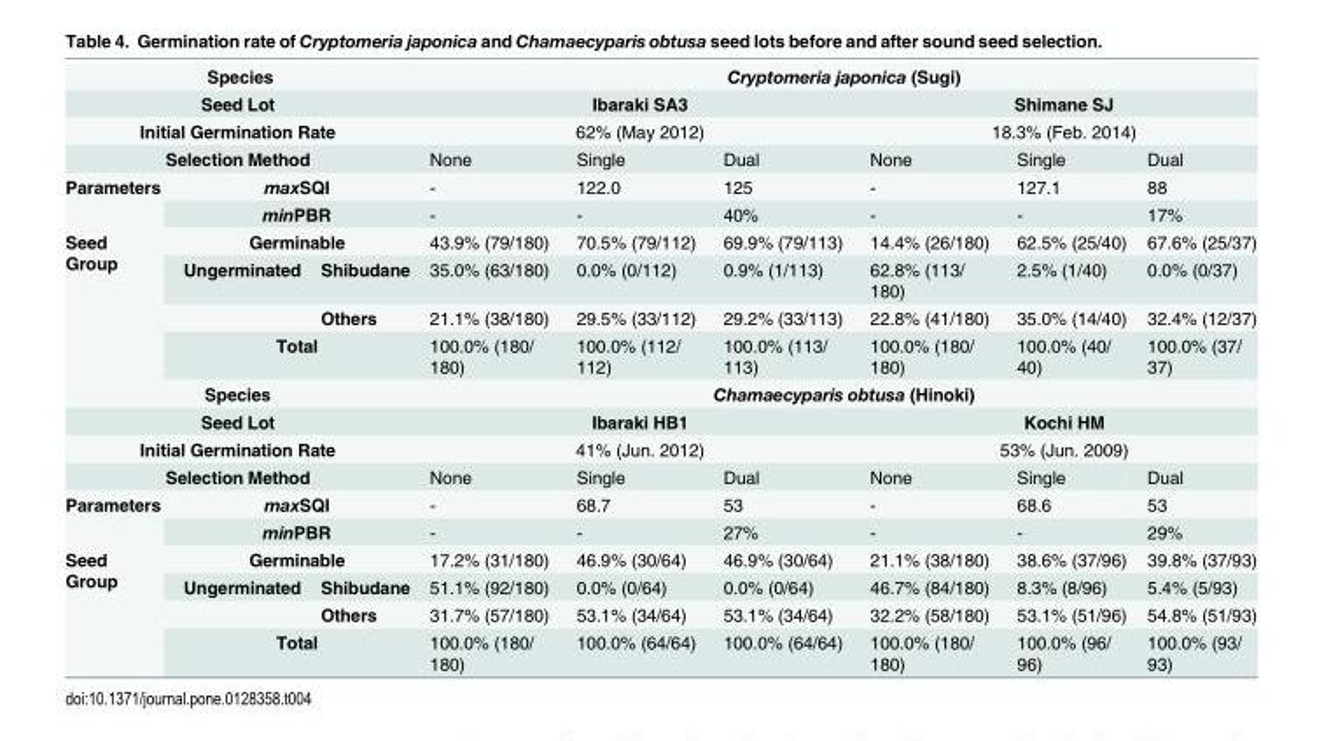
<table><tbody><tr><td colspan="3">Species</td><td colspan="6">Cryptomeria japonica (Sugi)</td></tr><tr><td colspan="3">Seed Lot</td><td colspan="3">Ibaraki SA3</td><td colspan="3">Shimane SJ</td></tr><tr><td colspan="3">Initial Germination Rate</td><td colspan="3">62% (May 2012)</td><td colspan="3">18.3% (Feb. 2014)</td></tr><tr><td colspan="3">Selection Method</td><td>None</td><td>Single</td><td>Dual</td><td>None</td><td>Single</td><td>Dual</td></tr><tr><td rowspan="2">Parameters</td><td colspan="2">maxSQI</td><td>-</td><td>122.0</td><td>125</td><td>-</td><td>127.1</td><td>88</td></tr><tr><td colspan="2">minPBR</td><td>-</td><td>-</td><td>40%</td><td>-</td><td>-</td><td>17%</td></tr><tr><td rowspan="4">Seed Group</td><td colspan="2">Germinable</td><td>43.9% (79/180)</td><td>70.5% (79/112)</td><td>69.9% (79/113)</td><td>14.4% (26/180)</td><td>62.5% (25/40)</td><td>67.6% (25/37)</td></tr><tr><td>Ungerminated</td><td>Shibudane</td><td>35.0% (63/180)</td><td>0.0% (0/112)</td><td>0.9% (1/113)</td><td>62.8% (113/ 180)</td><td>2.5% (1/40)</td><td>0.0% (0/37)</td></tr><tr><td></td><td>Others</td><td>21.1% (38/180)</td><td>29.5% (33/112)</td><td>29.2% (33/113)</td><td>22.8% (41/180)</td><td>35.0% (14/40)</td><td>32.4% (12/37)</td></tr><tr><td colspan="2">Total</td><td>100.0% (180/ 180)</td><td>100.0% (112/ 112)</td><td>100.0% (113/ 113)</td><td>100.0% (180/ 180)</td><td>100.0% (40/ 40)</td><td>100.0% (37/ 37)</td></tr><tr><td colspan="3">Species</td><td colspan="6">Chamaecyparis obtusa (Hinoki)</td></tr><tr><td colspan="3">Seed Lot</td><td colspan="3">Ibaraki HB1</td><td colspan="3">Kochi HM</td></tr><tr><td colspan="3">Initial Germination Rate</td><td colspan="3">41% (Jun. 2012)</td><td colspan="3">53% (Jun. 2009)</td></tr><tr><td colspan="3">Selection Method</td><td>None</td><td>Single</td><td>Dual</td><td>None</td><td>Single</td><td>Dual</td></tr><tr><td rowspan="2">Parameters</td><td colspan="2">maxSQI</td><td>-</td><td>68.7</td><td>53</td><td>-</td><td>68.6</td><td>53</td></tr><tr><td colspan="2">minPBR</td><td>-</td><td>-</td><td>27%</td><td>-</td><td>-</td><td>29%</td></tr><tr><td rowspan="4">Seed Group</td><td colspan="2">Germinable</td><td>17.2% (31/180)</td><td>46.9% (30/64)</td><td>46.9% (30/64)</td><td>21.1% (38/180)</td><td>38.6% (37/96)</td><td>39.8% (37/93)</td></tr><tr><td>Ungerminated</td><td>Shibudane</td><td>51.1% (92/180)</td><td>0.0% (0/64)</td><td>0.0% (0/64)</td><td>46.7% (84/180)</td><td>8.3% (8/96)</td><td>5.4% (5/93)</td></tr><tr><td></td><td>Others</td><td>31.7% (57/180)</td><td>53.1% (34/64)</td><td>53.1% (34/64)</td><td>32.2% (58/180)</td><td>53.1% (51/96)</td><td>54.8% (51/93)</td></tr><tr><td colspan="2">Total</td><td>100.0% (180/ 180)</td><td>100.0% (64/64)</td><td>100.0% (64/64)</td><td>100.0% (180/ 180)</td><td>100.0% (96/ 96)</td><td>100.0% (93/ 93)</td></tr></tbody></table>